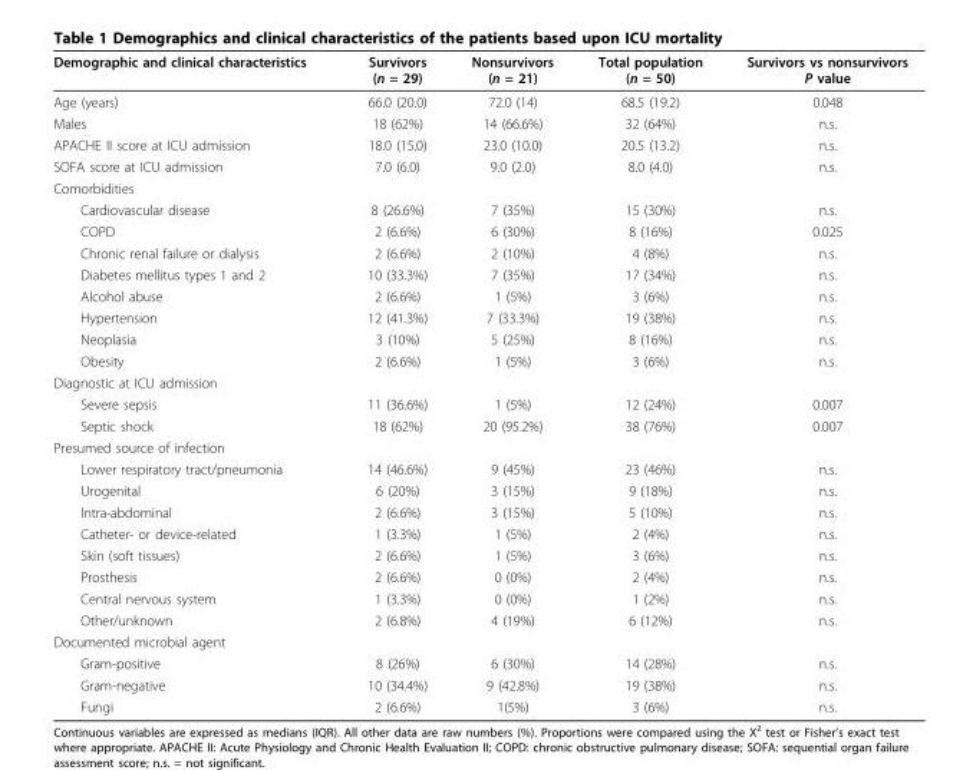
<table><thead><tr><td>Demographic and clinical characteristics</td><td>Survivors (n = 29)</td><td>Nonsurvivors (n = 21)</td><td>Total population (n = 50)</td><td>Survivors vs nonsurvivors P value</td></tr></thead><tbody><tr><td>Age (years)</td><td>66.0 (20.0)</td><td>72.0 (14)</td><td>68.5 (19.2)</td><td>0.048</td></tr><tr><td>Males</td><td>18 (62%)</td><td>14 (66.6%)</td><td>32 (64%)</td><td>n.s.</td></tr><tr><td>APACHE II score at ICU admission</td><td>18.0 (15.0)</td><td>23.0 (10.0)</td><td>20.5 (13.2)</td><td>n.s.</td></tr><tr><td>SOFA score at ICU admission</td><td>7.0 (6.0)</td><td>9.0 (2.0)</td><td>8.0 (4.0)</td><td>n.s.</td></tr><tr><td colspan="5">Comorbidities</td></tr><tr><td>Cardiovascular disease</td><td>8 (26.6%)</td><td>7 (35%)</td><td>15 (30%)</td><td>n.s.</td></tr><tr><td>COPD</td><td>2 (6.6%)</td><td>6 (30%)</td><td>8 (16%)</td><td>0.025</td></tr><tr><td>Chronic renal failure or dialysis</td><td>2 (6.6%)</td><td>2 (10%)</td><td>4 (8%)</td><td>n.s.</td></tr><tr><td>Diabetes mellitus types 1 and 2</td><td>10 (33.3%)</td><td>7 (35%)</td><td>17 (34%)</td><td>n.s.</td></tr><tr><td>Alcohol abuse</td><td>2 (6.6%)</td><td>1 (5%)</td><td>3 (6%)</td><td>n.s.</td></tr><tr><td>Hypertension</td><td>12 (41.3%)</td><td>7 (33.3%)</td><td>19 (38%)</td><td>n.s.</td></tr><tr><td>Neoplasia</td><td>3 (10%)</td><td>5 (25%)</td><td>8 (16%)</td><td>n.s.</td></tr><tr><td>Obesity</td><td>2 (6.6%)</td><td>1 (5%)</td><td>3 (6%)</td><td>n.s.</td></tr><tr><td colspan="5">Diagnostic at ICU admission</td></tr><tr><td>Severe sepsis</td><td>11 (36.6%)</td><td>1 (5%)</td><td>12 (24%)</td><td>0.007</td></tr><tr><td>Septic shock</td><td>18 (62%)</td><td>20 (95.2%)</td><td>38 (76%)</td><td>0.007</td></tr><tr><td colspan="5">Presumed source of infection</td></tr><tr><td>Lower respiratory tract/pneumonia</td><td>14 (46.6%)</td><td>9 (45%)</td><td>23 (46%)</td><td>n.s.</td></tr><tr><td>Urogenital</td><td>6 (20%)</td><td>3 (15%)</td><td>9 (18%)</td><td>n.s.</td></tr><tr><td>Intra-abdominal</td><td>2 (6.6%)</td><td>3 (15%)</td><td>5 (10%)</td><td>n.s.</td></tr><tr><td>Catheter- or device-related</td><td>1 (3.3%)</td><td>1 (5%)</td><td>2 (4%)</td><td>n.s.</td></tr><tr><td>Skin (soft tissues)</td><td>2 (6.6%)</td><td>1 (5%)</td><td>3 (6%)</td><td>n.s.</td></tr><tr><td>Prosthesis</td><td>2 (6.6%)</td><td>0 (0%)</td><td>2 (4%)</td><td>n.s.</td></tr><tr><td>Central nervous system</td><td>1 (3.3%)</td><td>0 (0%)</td><td>1 (2%)</td><td>n.s.</td></tr><tr><td>Other/unknown</td><td>2 (6.8%)</td><td>4 (19%)</td><td>6 (12%)</td><td>n.s.</td></tr><tr><td colspan="5">Documented microbial agent</td></tr><tr><td>Gram-positive</td><td>8 (26%)</td><td>6 (30%)</td><td>14 (28%)</td><td>n.s.</td></tr><tr><td>Gram-negative</td><td>10 (34.4%)</td><td>9 (42.8%)</td><td>19 (38%)</td><td>n.s.</td></tr><tr><td>Fungi</td><td>2 (6.6%)</td><td>1(5%)</td><td>3 (6%)</td><td>n.s.</td></tr></tbody></table>